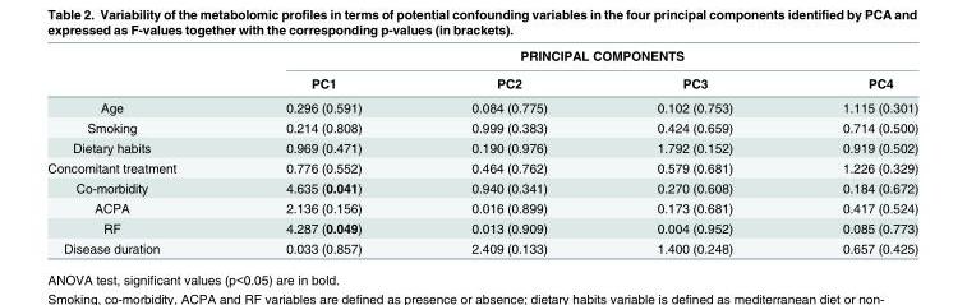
<table><thead><tr><td rowspan="2"></td><td colspan="4">PRINCIPAL COMPONENTS</td></tr><tr><td>PC1</td><td>PC2</td><td>PC3</td><td>PC4</td></tr></thead><tbody><tr><td>Age</td><td>0.296 (0.591)</td><td>0.084 (0.775)</td><td>0.102 (0.753)</td><td>1.115 (0.301)</td></tr><tr><td>Smoking</td><td>0.214 (0.808)</td><td>0.999 (0.383)</td><td>0.424 (0.659)</td><td>0.714 (0.500)</td></tr><tr><td>Dietary habits</td><td>0.969 (0.471)</td><td>0.190 (0.976)</td><td>1.792 (0.152)</td><td>0.919 (0.502)</td></tr><tr><td>Concomitant treatment</td><td>0.776 (0.552)</td><td>0.464 (0.762)</td><td>0.579 (0.681)</td><td>1.226 (0.329)</td></tr><tr><td>Co-morbidity</td><td>4.635 (0.041)</td><td>0.940 (0.341)</td><td>0.270 (0.608)</td><td>0.184 (0.672)</td></tr><tr><td>ACPA</td><td>2.136 (0.156)</td><td>0.016 (0.899)</td><td>0.173 (0.681)</td><td>0.417 (0.524)</td></tr><tr><td>RF</td><td>4.287 (0.049)</td><td>0.013 (0.909)</td><td>0.004 (0.952)</td><td>0.085 (0.773)</td></tr><tr><td>Disease duration</td><td>0.033 (0.857)</td><td>2.409 (0.133)</td><td>1.400 (0.248)</td><td>0.657 (0.425)</td></tr></tbody></table>